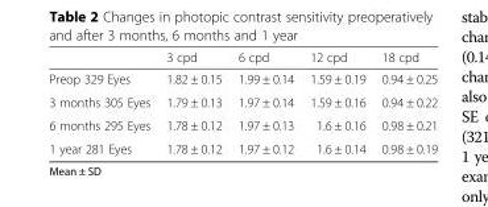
<table><thead><tr><td></td><td>3 cpd</td><td>6 cpd</td><td>12 cpd</td><td>18 cpd</td></tr></thead><tbody><tr><td>Preop 329 Eyes</td><td>1.82 ± 0.15</td><td>1.99 ± 0.14</td><td>1.59 ± 0.19</td><td>0.94 ± 0.25</td></tr><tr><td>3 months 305 Eyes</td><td>1.79 ± 0.13</td><td>1.97 ± 0.14</td><td>1.59 ± 0.16</td><td>0.94 ± 0.22</td></tr><tr><td>6 months 295 Eyes</td><td>1.78 ± 0.12</td><td>1.97 ± 0.13</td><td>1.6 ± 0.16</td><td>0.98 ± 0.21</td></tr><tr><td>1 year 281 Eyes</td><td>1.78 ± 0.12</td><td>1.97 ± 0.12</td><td>1.6 ± 0.14</td><td>0.98 ± 0.19</td></tr></tbody></table>